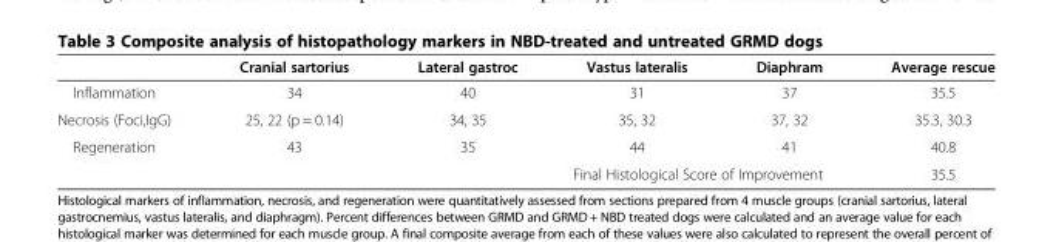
<table><thead><tr><td></td><td>Cranial sartorius</td><td>Lateral gastroc</td><td>Vastus lateralis</td><td>Diaphram</td><td>Average rescue</td></tr></thead><tbody><tr><td>Inflammation</td><td>34</td><td>40</td><td>31</td><td>37</td><td>35.5</td></tr><tr><td>Necrosis (Foci,IgG)</td><td>25, 22 (p = 0.14)</td><td>34, 35</td><td>35, 32</td><td>37, 32</td><td>35.3, 30.3</td></tr><tr><td rowspan="2">Regeneration</td><td>43</td><td>35</td><td>44</td><td>41</td><td>40.8</td></tr><tr><td></td><td></td><td colspan="2">Final Histological Score of Improvement</td><td>35.5</td></tr></tbody></table>